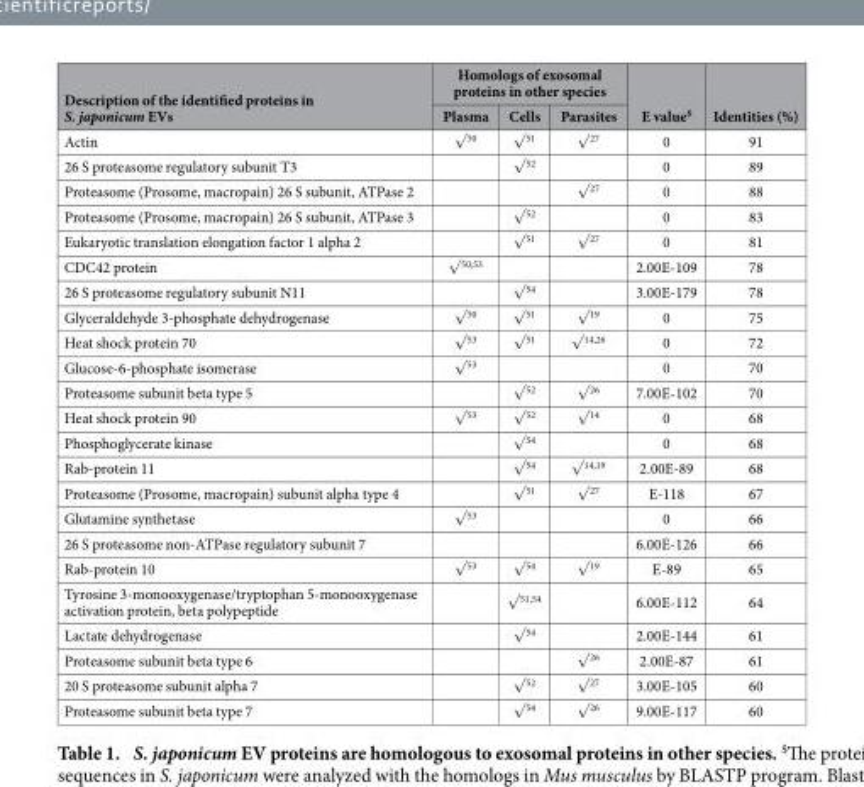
<table><thead><tr><td rowspan="2">Description of the identified proteins in S. japonicum EVs</td><td colspan="3">Homologs of exosomal proteins in other species</td><td rowspan="2">E value$</td><td rowspan="2">Identities (%)</td></tr><tr><td>Plasma</td><td>Cells</td><td>Parasites</td></tr></thead><tbody><tr><td>Actin</td><td>√ <sup>50</sup></td><td>√ <sup>51</sup></td><td>√ <sup>27</sup></td><td>0</td><td>91</td></tr><tr><td>26 S proteasome regulatory subunit T3</td><td></td><td>√ <sup>52</sup></td><td></td><td>0</td><td>89</td></tr><tr><td>Proteasome (Prosome, macropain) 26 S subunit, ATPase 2</td><td></td><td></td><td>√ <sup>27</sup></td><td>0</td><td>88</td></tr><tr><td>Proteasome (Prosome, macropain) 26 S subunit, ATPase 3</td><td></td><td>√ <sup>52</sup></td><td></td><td>0</td><td>83</td></tr><tr><td>Eukaryotic translation elongation factor 1 alpha 2</td><td></td><td>√ <sup>51</sup></td><td>√ <sup>27</sup></td><td>0</td><td>81</td></tr><tr><td>CDC42 protein</td><td>√ <sup>50</sup>,<sup>53</sup></td><td></td><td></td><td>2.00E-109</td><td>78</td></tr><tr><td>26 S proteasome regulatory subunit N11</td><td></td><td>√ <sup>54</sup></td><td></td><td>3.00E-179</td><td>78</td></tr><tr><td>Glyceraldehyde 3-phosphate dehydrogenase</td><td>√ <sup>50</sup></td><td>√ <sup>51</sup></td><td>√ <sup>19</sup></td><td>0</td><td>75</td></tr><tr><td>Heat shock protein 70</td><td>√ <sup>53</sup></td><td>√ <sup>51</sup></td><td>√ <sup>14</sup>,<sup>26</sup></td><td>0</td><td>72</td></tr><tr><td>Glucose-6-phosphate isomerase</td><td>√ <sup>53</sup></td><td></td><td></td><td>0</td><td>70</td></tr><tr><td>Proteasome subunit beta type 5</td><td></td><td>√ <sup>52</sup></td><td>√ <sup>26</sup></td><td>7.00E-102</td><td>70</td></tr><tr><td>Heat shock protein 90</td><td>√ <sup>53</sup></td><td>√ <sup>52</sup></td><td>√ <sup>14</sup></td><td>0</td><td>68</td></tr><tr><td>Phosphoglycerate kinase</td><td></td><td>√ <sup>54</sup></td><td></td><td>0</td><td>68</td></tr><tr><td>Rab-protein 11</td><td></td><td>√ <sup>54</sup></td><td>√ <sup>14</sup>,<sup>19</sup></td><td>2.00E-89</td><td>68</td></tr><tr><td>Proteasome (Prosome, macropain) subunit alpha type 4</td><td></td><td>√ <sup>51</sup></td><td>√ <sup>27</sup></td><td>E-118</td><td>67</td></tr><tr><td>Glutamine synthetase</td><td>√ <sup>53</sup></td><td></td><td></td><td>0</td><td>66</td></tr><tr><td>26 S proteasome non-ATPase regulatory subunit 7</td><td></td><td></td><td></td><td>6.00E-126</td><td>66</td></tr><tr><td>Rab-protein 10</td><td>√ <sup>53</sup></td><td>√ <sup>54</sup></td><td>√ <sup>19</sup></td><td>E-89</td><td>65</td></tr><tr><td>Tyrosine 3-monooxygenase/tryptophan 5-monooxygenase activation protein, beta polypeptide</td><td></td><td>√ <sup>51</sup>,<sup>54</sup></td><td></td><td>6.00E-112</td><td>64</td></tr><tr><td>Lactate dehydrogenase</td><td></td><td>√ <sup>54</sup></td><td></td><td>2.00E-144</td><td>61</td></tr><tr><td>Proteasome subunit beta type 6</td><td></td><td></td><td>√ <sup>26</sup></td><td>2.00E-87</td><td>61</td></tr><tr><td>20 S proteasome subunit alpha 7</td><td></td><td>√ <sup>52</sup></td><td>√ <sup>27</sup></td><td>3.00E-105</td><td>60</td></tr><tr><td>Proteasome subunit beta type 7</td><td></td><td>√ <sup>54</sup></td><td>√ <sup>26</sup></td><td>9.00E-117</td><td>60</td></tr></tbody></table>